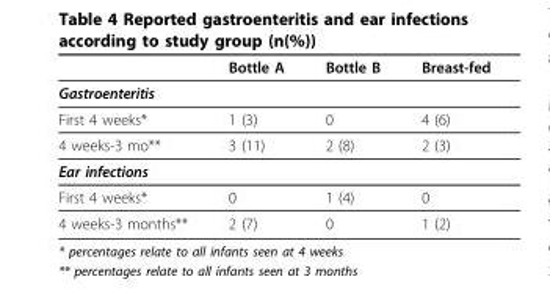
<table><thead><tr><td></td><td>Bottle A</td><td>Bottle B</td><td>Breast-fed</td></tr></thead><tbody><tr><td colspan="4">Gastroenteritis</td></tr><tr><td>First 4 weeks*</td><td>1 (3)</td><td>0</td><td>4 (6)</td></tr><tr><td>4 weeks-3 mo**</td><td>3 (11)</td><td>2 (8)</td><td>2 (3)</td></tr><tr><td colspan="4">Ear infections</td></tr><tr><td>First 4 weeks*</td><td>0</td><td>1 (4)</td><td>0</td></tr><tr><td>4 weeks-3 months**</td><td>2 (7)</td><td>0</td><td>1 (2)</td></tr></tbody></table>